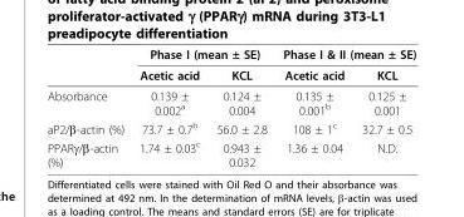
<table><thead><tr><td rowspan="2"></td><td colspan="2">Phase I (mean ± SE)</td><td colspan="2">Phase I &amp; II (mean ± SE)</td></tr><tr><td>Acetic acid</td><td>KCL</td><td>Acetic acid</td><td>KCL</td></tr></thead><tbody><tr><td>Absorbance</td><td>0.139 ± 0.002<sup>a</sup></td><td>0.124 ± 0.004</td><td>0.135 ± 0.001<sup>b</sup></td><td>0.125 ± 0.001</td></tr><tr><td>aP2/β-actin (%)</td><td>73.7 ± 0.7<sup>b</sup></td><td>56.0 ± 2.8</td><td>108 ± 1<sup>c</sup></td><td>32.7 ± 0.5</td></tr><tr><td>PPARγ/β-actin (%)</td><td>1.74 ± 0.03<sup>c</sup></td><td>0.943 ± 0.032</td><td>1.36 ± 0.04</td><td>N.D.</td></tr></tbody></table>